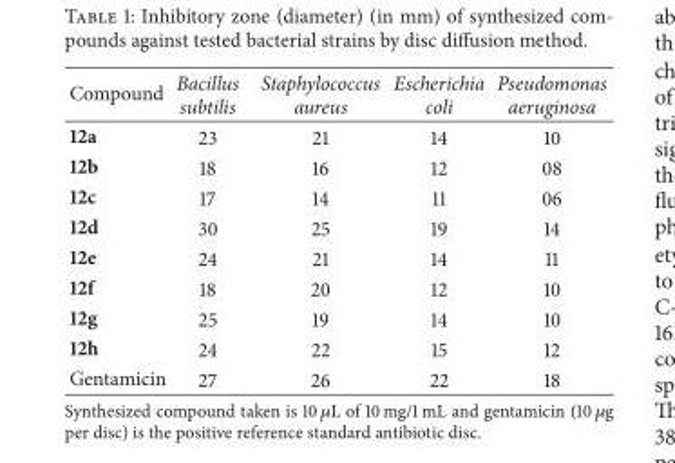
<table><thead><tr><td>Compound</td><td>Bacillus subtilis</td><td>Staphylococcus aureus</td><td>Escherichia coli</td><td>Pseudomonas aeruginosa</td></tr></thead><tbody><tr><td>12a</td><td>23</td><td>21</td><td>14</td><td>10</td></tr><tr><td>12b</td><td>18</td><td>16</td><td>12</td><td>08</td></tr><tr><td>12c</td><td>17</td><td>14</td><td>11</td><td>06</td></tr><tr><td>12d</td><td>30</td><td>25</td><td>19</td><td>14</td></tr><tr><td>12e</td><td>24</td><td>21</td><td>14</td><td>11</td></tr><tr><td>12f</td><td>18</td><td>20</td><td>12</td><td>10</td></tr><tr><td>12g</td><td>25</td><td>19</td><td>14</td><td>10</td></tr><tr><td>12h</td><td>24</td><td>22</td><td>15</td><td>12</td></tr><tr><td>Gentamicin</td><td>27</td><td>26</td><td>22</td><td>18</td></tr></tbody></table>